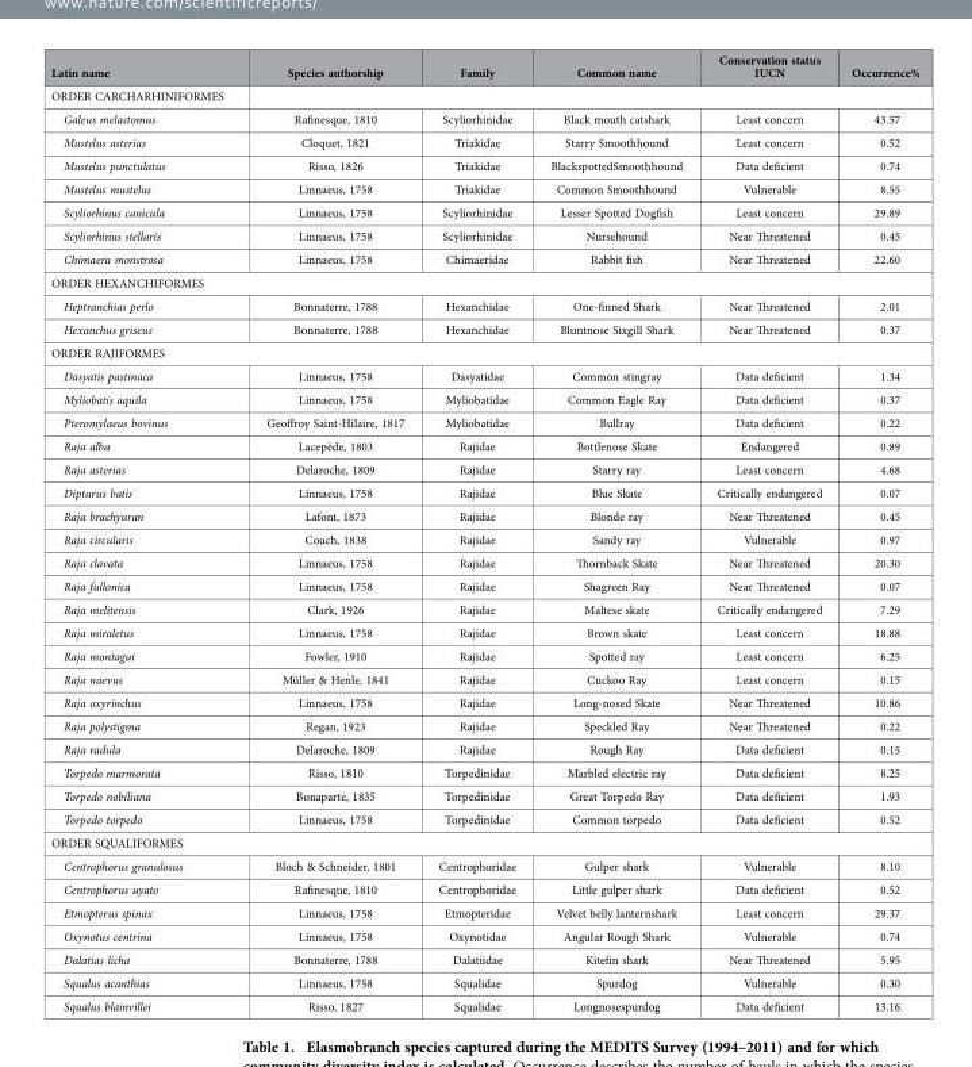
<table><thead><tr><td>Latin name</td><td>Species authorship</td><td>Family</td><td>Common name</td><td>Conservation status IUCN</td><td>Occurrence%</td></tr></thead><tbody><tr><td colspan="6">ORDER CARCHARHINIFORMES</td></tr><tr><td>Galeus melastomus</td><td>Rafinesque, 1810</td><td>Scyliorhinidae</td><td>Black mouth catshark</td><td>Least concern</td><td>43.57</td></tr><tr><td>Mustelus asterias</td><td>Cloquet, 1821</td><td>Triakidae</td><td>Starry Smoothhound</td><td>Least concern</td><td>0.52</td></tr><tr><td>Mustelus punctulatus</td><td>Risso, 1826</td><td>Triakidae</td><td>BlackspottedSmoothhound</td><td>Data deficient</td><td>0.74</td></tr><tr><td>Mustelus mustelus</td><td>Linnaeus, 1758</td><td>Triakidae</td><td>Common Smoothhound</td><td>Vulnerable</td><td>8.55</td></tr><tr><td>Scyliorhinus canicula</td><td>Linnaeus, 1758</td><td>Scyliorhinidae</td><td>Lesser Spotted Dogfish</td><td>Least concern</td><td>29.89</td></tr><tr><td>Scyliorhinus stellaris</td><td>Linnaeus, 1758</td><td>Scyliorhinidae</td><td>Nursehound</td><td>Near Threatened</td><td>0.45</td></tr><tr><td>Chimaera monstrosa</td><td>Linnaeus, 1758</td><td>Chimaeridae</td><td>Rabbit fish</td><td>Near Threatened</td><td>22.60</td></tr><tr><td colspan="6">ORDER HEXANCHIFORMES</td></tr><tr><td>Heptranchias perlo</td><td>Bonnaterre, 1788</td><td>Hexanchidae</td><td>One-finned Shark</td><td>Near Threatened</td><td>2.01</td></tr><tr><td>Hexanchus griseus</td><td>Bonnaterre, 1788</td><td>Hexanchidae</td><td>Bluntnose Sixgill Shark</td><td>Near Threatened</td><td>0.37</td></tr><tr><td colspan="6">ORDER RAJIFORMES</td></tr><tr><td>Dasyatis pastinaca</td><td>Linnaeus, 1758</td><td>Dasyatidae</td><td>Common stingray</td><td>Data deficient</td><td>1.34</td></tr><tr><td>Myliobatis aquila</td><td>Linnaeus, 1758</td><td>Myliobatidae</td><td>Common Eagle Ray</td><td>Data deficient</td><td>0.37</td></tr><tr><td>Pteromylaeus bovinus</td><td>Geoffroy Saint-Hilaire, 1817</td><td>Myliobatidae</td><td>Bullray</td><td>Data deficient</td><td>0.22</td></tr><tr><td>Raja alba</td><td>Lacepède, 1803</td><td>Rajidae</td><td>Bottlenose Skate</td><td>Endangered</td><td>0.89</td></tr><tr><td>Raja asterias</td><td>Delaroche, 1809</td><td>Rajidae</td><td>Starry ray</td><td>Least concern</td><td>4.68</td></tr><tr><td>Dipturus batis</td><td>Linnaeus, 1758</td><td>Rajidae</td><td>Blue Skate</td><td>Critically endangered</td><td>0.07</td></tr><tr><td>Raja brachyuran</td><td>Lafont, 1873</td><td>Rajidae</td><td>Blonde ray</td><td>Near Threatened</td><td>0.45</td></tr><tr><td>Raja circularis</td><td>Couch, 1838</td><td>Rajidae</td><td>Sandy ray</td><td>Vulnerable</td><td>0.97</td></tr><tr><td>Raja clavata</td><td>Linnaeus, 1758</td><td>Rajidae</td><td>Thornback Skate</td><td>Near Threatened</td><td>20.30</td></tr><tr><td>Raja fullonica</td><td>Linnaeus, 1758</td><td>Rajidae</td><td>Shagreen Ray</td><td>Near Threatened</td><td>0.07</td></tr><tr><td>Raja melitensis</td><td>Clark, 1926</td><td>Rajidae</td><td>Maltese skate</td><td>Critically endangered</td><td>7.29</td></tr><tr><td>Raja miraletus</td><td>Linnaeus, 1758</td><td>Rajidae</td><td>Brown skate</td><td>Least concern</td><td>18.88</td></tr><tr><td>Raja montagui</td><td>Fowler, 1910</td><td>Rajidae</td><td>Spotted ray</td><td>Least concern</td><td>6.25</td></tr><tr><td>Raja naevus</td><td>Müller &amp; Henle, 1841</td><td>Rajidae</td><td>Cuckoo Ray</td><td>Least concern</td><td>0.15</td></tr><tr><td>Raja oxyrinchus</td><td>Linnaeus, 1758</td><td>Rajidae</td><td>Long-nosed Skate</td><td>Near Threatened</td><td>10.86</td></tr><tr><td>Raja polystigma</td><td>Regan, 1923</td><td>Rajidae</td><td>Speckled Ray</td><td>Near Threatened</td><td>0.22</td></tr><tr><td>Raja radula</td><td>Delaroche, 1809</td><td>Rajidae</td><td>Rough Ray</td><td>Data deficient</td><td>0.15</td></tr><tr><td>Torpedo marmorata</td><td>Risso, 1810</td><td>Torpedinidae</td><td>Marbled electric ray</td><td>Data deficient</td><td>8.25</td></tr><tr><td>Torpedo nobiliana</td><td>Bonaparte, 1835</td><td>Torpedinidae</td><td>Great Torpedo Ray</td><td>Data deficient</td><td>1.93</td></tr><tr><td>Torpedo torpedo</td><td>Linnaeus, 1758</td><td>Torpedinidae</td><td>Common torpedo</td><td>Data deficient</td><td>0.52</td></tr><tr><td colspan="6">ORDER SQUALIFORMES</td></tr><tr><td>Centrophorus granulosus</td><td>Bloch &amp; Schneider, 1801</td><td>Centrophoridae</td><td>Gulper shark</td><td>Vulnerable</td><td>8.10</td></tr><tr><td>Centrophorus uyato</td><td>Rafinesque, 1810</td><td>Centrophoridae</td><td>Little gulper shark</td><td>Data deficient</td><td>0.52</td></tr><tr><td>Etmopterus spinax</td><td>Linnaeus, 1758</td><td>Etmopteridae</td><td>Velvet belly lanternshark</td><td>Least concern</td><td>29.37</td></tr><tr><td>Oxynotus centrina</td><td>Linnaeus, 1758</td><td>Oxynotidae</td><td>Angular Rough Shark</td><td>Vulnerable</td><td>0.74</td></tr><tr><td>Dalatias licha</td><td>Bonnaterre, 1788</td><td>Dalatiidae</td><td>Kitefin shark</td><td>Near Threatened</td><td>5.95</td></tr><tr><td>Squalus acanthias</td><td>Linnaeus, 1758</td><td>Squalidae</td><td>Spurdog</td><td>Vulnerable</td><td>0.30</td></tr><tr><td>Squalus blainvillei</td><td>Risso, 1827</td><td>Squalidae</td><td>Longnosespurdog</td><td>Data deficient</td><td>13.16</td></tr></tbody></table>